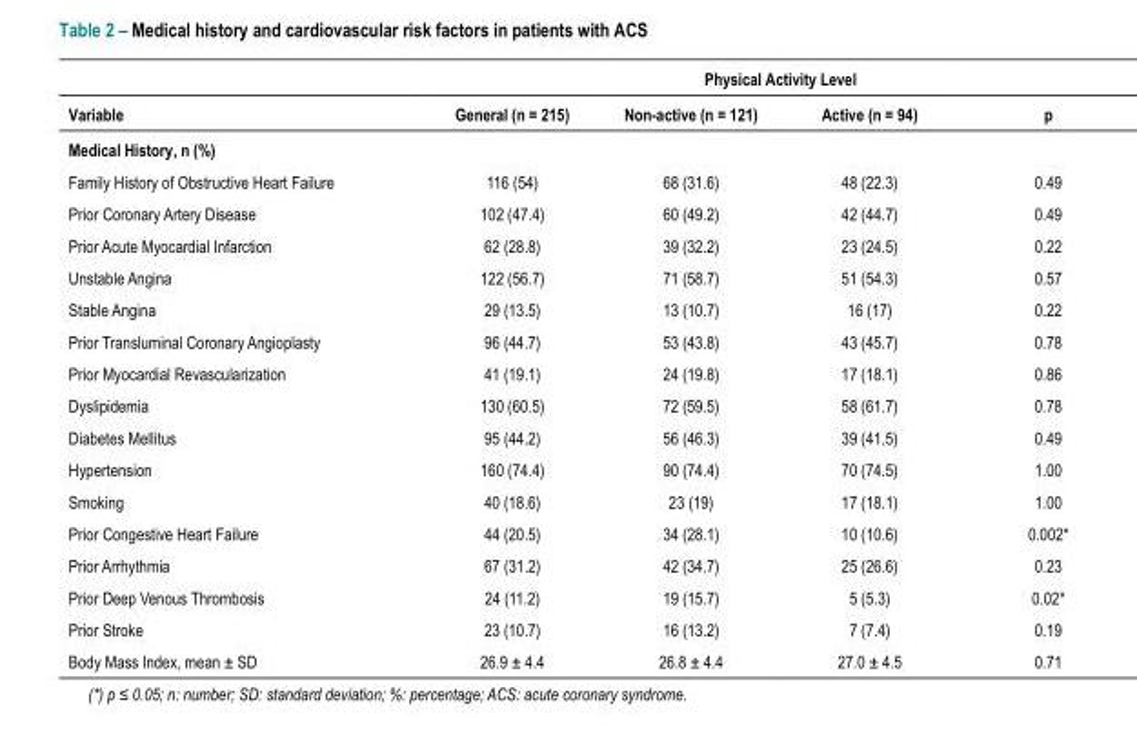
<table><thead><tr><td rowspan="2">Variable</td><td colspan="4">Physical Activity Level</td></tr><tr><td>General (n = 215)</td><td>Non-active (n = 121)</td><td>Active (n = 94)</td><td>p</td></tr></thead><tbody><tr><td colspan="5">Medical History, n (%)</td></tr><tr><td>Family History of Obstructive Heart Failure</td><td>116 (54)</td><td>68 (31.6)</td><td>48 (22.3)</td><td>0.49</td></tr><tr><td>Prior Coronary Artery Disease</td><td>102 (47.4)</td><td>60 (49.2)</td><td>42 (44.7)</td><td>0.49</td></tr><tr><td>Prior Acute Myocardial Infarction</td><td>62 (28.8)</td><td>39 (32.2)</td><td>23 (24.5)</td><td>0.22</td></tr><tr><td>Unstable Angina</td><td>122 (56.7)</td><td>71 (58.7)</td><td>51 (54.3)</td><td>0.57</td></tr><tr><td>Stable Angina</td><td>29 (13.5)</td><td>13 (10.7)</td><td>16 (17)</td><td>0.22</td></tr><tr><td>Prior Transluminal Coronary Angioplasty</td><td>96 (44.7)</td><td>53 (43.8)</td><td>43 (45.7)</td><td>0.78</td></tr><tr><td>Prior Myocardial Revascularization</td><td>41 (19.1)</td><td>24 (19.8)</td><td>17 (18.1)</td><td>0.86</td></tr><tr><td>Dyslipidemia</td><td>130 (60.5)</td><td>72 (59.5)</td><td>58 (61.7)</td><td>0.78</td></tr><tr><td>Diabetes Mellitus</td><td>95 (44.2)</td><td>56 (46.3)</td><td>39 (41.5)</td><td>0.49</td></tr><tr><td>Hypertension</td><td>160 (74.4)</td><td>90 (74.4)</td><td>70 (74.5)</td><td>1.00</td></tr><tr><td>Smoking</td><td>40 (18.6)</td><td>23 (19)</td><td>17 (18.1)</td><td>1.00</td></tr><tr><td>Prior Congestive Heart Failure</td><td>44 (20.5)</td><td>34 (28.1)</td><td>10 (10.6)</td><td>0.002*</td></tr><tr><td>Prior Arrhythmia</td><td>67 (31.2)</td><td>42 (34.7)</td><td>25 (26.6)</td><td>0.23</td></tr><tr><td>Prior Deep Venous Thrombosis</td><td>24 (11.2)</td><td>19 (15.7)</td><td>5 (5.3)</td><td>0.02*</td></tr><tr><td>Prior Stroke</td><td>23 (10.7)</td><td>16 (13.2)</td><td>7 (7.4)</td><td>0.19</td></tr><tr><td>Body Mass Index, mean ± SD</td><td>26.9 ± 4.4</td><td>26.8 ± 4.4</td><td>27.0 ± 4.5</td><td>0.71</td></tr></tbody></table>